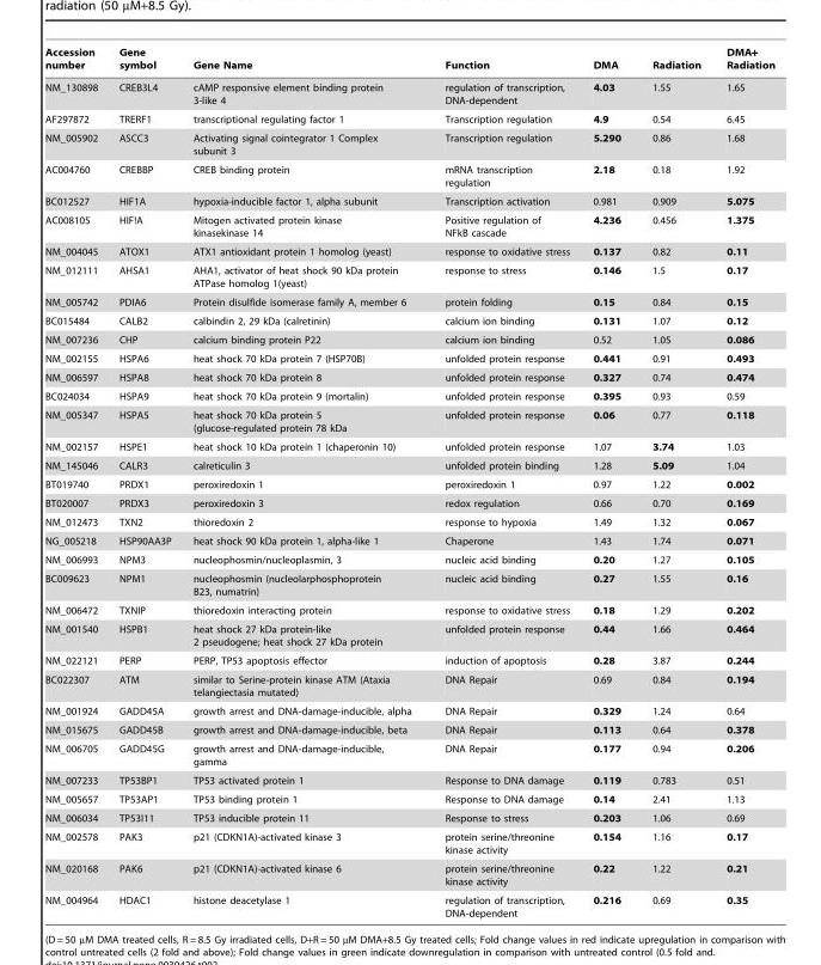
<table><thead><tr><td>Accession number</td><td>Gene symbol</td><td>Gene Name</td><td>Function</td><td>DMA</td><td>Radiation</td><td>DMA+ Radiation</td></tr></thead><tbody><tr><td>NM_130898</td><td>CREB3L4</td><td>cAMP responsive element binding protein 3-like 4</td><td>regulation of transcription, DNA-dependent</td><td>4.03</td><td>1.55</td><td>1.65</td></tr><tr><td>AF297872</td><td>TRERF1</td><td>transcriptional regulating factor 1</td><td>Transcription regulation</td><td>4.9</td><td>0.54</td><td>6.45</td></tr><tr><td>NM_005902</td><td>ASCC3</td><td>Activating signal cointegrator 1 Complex subunit 3</td><td>Transcription regulation</td><td>5.290</td><td>0.86</td><td>1.68</td></tr><tr><td>AC004760</td><td>CREBBP</td><td>CREB binding protein</td><td>mRNA transcription regulation</td><td>2.18</td><td>0.18</td><td>1.92</td></tr><tr><td>BC012527</td><td>HIF1A</td><td>hypoxia-inducible factor 1, alpha subunit</td><td>Transcription activation</td><td>0.981</td><td>0.909</td><td>5.075</td></tr><tr><td>AC008105</td><td>HIF!A</td><td>Mitogen activated protein kinase kinasekinase 14</td><td>Positive regulation of NFkB cascade</td><td>4.236</td><td>0.456</td><td>1.375</td></tr><tr><td>NM_004045</td><td>ATOX1</td><td>ATX1 antioxidant protein 1 homolog (yeast)</td><td>response to oxidative stress</td><td>0.137</td><td>0.82</td><td>0.11</td></tr><tr><td>NM_012111</td><td>AHSA1</td><td>AHA1, activator of heat shock 90 kDa protein ATPase homolog 1(yeast)</td><td>response to stress</td><td>0.146</td><td>1.5</td><td>0.17</td></tr><tr><td>NM_005742</td><td>PDIA6</td><td>Protein disulfide isomerase family A, member 6</td><td>protein folding</td><td>0.15</td><td>0.84</td><td>0.15</td></tr><tr><td>BC015484</td><td>CALB2</td><td>calbindin 2, 29 kDa (calretinin)</td><td>calcium ion binding</td><td>0.131</td><td>1.07</td><td>0.12</td></tr><tr><td>NM_007236</td><td>CHP</td><td>calcium binding protein P22</td><td>calcium ion binding</td><td>0.52</td><td>1.05</td><td>0.086</td></tr><tr><td>NM_002155</td><td>HSPA6</td><td>heat shock 70 kDa protein 7 (HSP70B)</td><td>unfolded protein response</td><td>0.441</td><td>0.91</td><td>0.493</td></tr><tr><td>NM_006597</td><td>HSPA8</td><td>heat shock 70 kDa protein 8</td><td>unfolded protein response</td><td>0.327</td><td>0.74</td><td>0.474</td></tr><tr><td>BC024034</td><td>HSPA9</td><td>heat shock 70 kDa protein 9 (mortalin)</td><td>unfolded protein response</td><td>0.395</td><td>0.93</td><td>0.59</td></tr><tr><td>NM_005347</td><td>HSPA5</td><td>heat shock 70 kDa protein 5 (glucose-regulated protein 78 kDa</td><td>unfolded protein response</td><td>0.06</td><td>0.77</td><td>0.118</td></tr><tr><td>NM_002157</td><td>HSPE1</td><td>heat shock 10 kDa protein 1 (chaperonin 10)</td><td>unfolded protein response</td><td>1.07</td><td>3.74</td><td>1.03</td></tr><tr><td>NM_145046</td><td>CALR3</td><td>calreticulin 3</td><td>unfolded protein binding</td><td>1.28</td><td>5.09</td><td>1.04</td></tr><tr><td>BT019740</td><td>PRDX1</td><td>peroxiredoxin 1</td><td>peroxiredoxin 1</td><td>0.97</td><td>1.22</td><td>0.002</td></tr><tr><td>BT020007</td><td>PRDX3</td><td>peroxiredoxin 3</td><td>redox regulation</td><td>0.66</td><td>0.70</td><td>0.169</td></tr><tr><td>NM_012473</td><td>TXN2</td><td>thioredoxin 2</td><td>response to hypoxia</td><td>1.49</td><td>1.32</td><td>0.067</td></tr><tr><td>NG_005218</td><td>HSP90AA3P</td><td>heat shock 90 kDa protein 1, alpha-like 1</td><td>Chaperone</td><td>1.43</td><td>1.74</td><td>0.071</td></tr><tr><td>NM_006993</td><td>NPM3</td><td>nucleophosmin/nucleoplasmin, 3</td><td>nucleic acid binding</td><td>0.20</td><td>1.27</td><td>0.105</td></tr><tr><td>BC009623</td><td>NPM1</td><td>nucleophosmin (nucleolarphosphoprotein B23, numatrin)</td><td>nucleic acid binding</td><td>0.27</td><td>1.55</td><td>0.16</td></tr><tr><td>NM_006472</td><td>TXNIP</td><td>thioredoxin interacting protein</td><td>response to oxidative stress</td><td>0.18</td><td>1.29</td><td>0.202</td></tr><tr><td>NM_001540</td><td>HSPB1</td><td>heat shock 27 kDa protein-like 2 pseudogene; heat shock 27 kDa protein</td><td>unfolded protein response</td><td>0.44</td><td>1.66</td><td>0.464</td></tr><tr><td>NM_022121</td><td>PERP</td><td>PERP, TP53 apoptosis effector</td><td>induction of apoptosis</td><td>0.28</td><td>3.87</td><td>0.244</td></tr><tr><td>BC022307</td><td>ATM</td><td>similar to Serine-protein kinase ATM (Ataxia telangiectasia mutated)</td><td>DNA Repair</td><td>0.69</td><td>0.84</td><td>0.194</td></tr><tr><td>NM_001924</td><td>GADD45A</td><td>growth arrest and DNA-damage-inducible, alpha</td><td>DNA Repair</td><td>0.329</td><td>1.24</td><td>0.64</td></tr><tr><td>NM_015675</td><td>GADD45B</td><td>growth arrest and DNA-damage-inducible, beta</td><td>DNA Repair</td><td>0.113</td><td>0.64</td><td>0.378</td></tr><tr><td>NM_006705</td><td>GADD45G</td><td>growth arrest and DNA-damage-inducible, gamma</td><td>DNA Repair</td><td>0.177</td><td>0.94</td><td>0.206</td></tr><tr><td>NM_007233</td><td>TP53BP1</td><td>TP53 activated protein 1</td><td>Response to DNA damage</td><td>0.119</td><td>0.783</td><td>0.51</td></tr><tr><td>NM_005657</td><td>TP53AP1</td><td>TP53 binding protein 1</td><td>Response to DNA damage</td><td>0.14</td><td>2.41</td><td>1.13</td></tr><tr><td>NM_006034</td><td>TP53I11</td><td>TP53 inducible protein 11</td><td>Response to stress</td><td>0.203</td><td>1.06</td><td>0.69</td></tr><tr><td>NM_002578</td><td>PAK3</td><td>p21 (CDKN1A)-activated kinase 3</td><td>protein serine/threonine kinase activity</td><td>0.154</td><td>1.16</td><td>0.17</td></tr><tr><td>NM_020168</td><td>PAK6</td><td>p21 (CDKN1A)-activated kinase 6</td><td>protein serine/threonine kinase activity</td><td>0.22</td><td>1.22</td><td>0.21</td></tr><tr><td>NM_004964</td><td>HDAC1</td><td>histone deacetylase 1</td><td>regulation of transcription, DNA-dependent</td><td>0.216</td><td>0.69</td><td>0.35</td></tr></tbody></table>